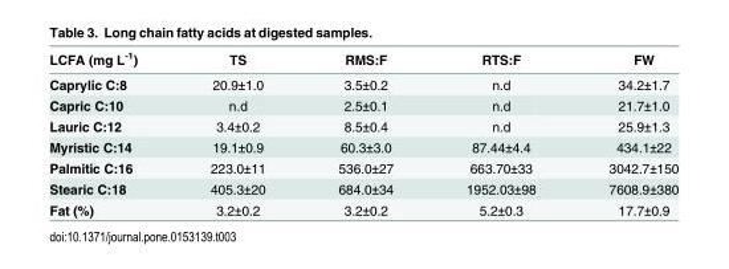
<table><thead><tr><td>LCFA (mg L<sup>-1</sup>)</td><td>TS</td><td>RMS:F</td><td>RTS:F</td><td>FW</td></tr></thead><tbody><tr><td>Caprylic C:8</td><td>20.9±1.0</td><td>3.5±0.2</td><td>n.d</td><td>34.2±1.7</td></tr><tr><td>Capric C:10</td><td>n.d</td><td>2.5±0.1</td><td>n.d</td><td>21.7±1.0</td></tr><tr><td>Lauric C:12</td><td>3.4±0.2</td><td>8.5±0.4</td><td>n.d</td><td>25.9±1.3</td></tr><tr><td>Myristic C:14</td><td>19.1±0.9</td><td>60.3±3.0</td><td>87.44±4.4</td><td>434.1±22</td></tr><tr><td>Palmitic C:16</td><td>223.0±11</td><td>536.0±27</td><td>663.70±33</td><td>3042.7±150</td></tr><tr><td>Stearic C:18</td><td>405.3±20</td><td>684.0±34</td><td>1952.03±98</td><td>7608.9±380</td></tr><tr><td>Fat (%)</td><td>3.2±0.2</td><td>3.2±0.2</td><td>5.2±0.3</td><td>17.7±0.9</td></tr></tbody></table>